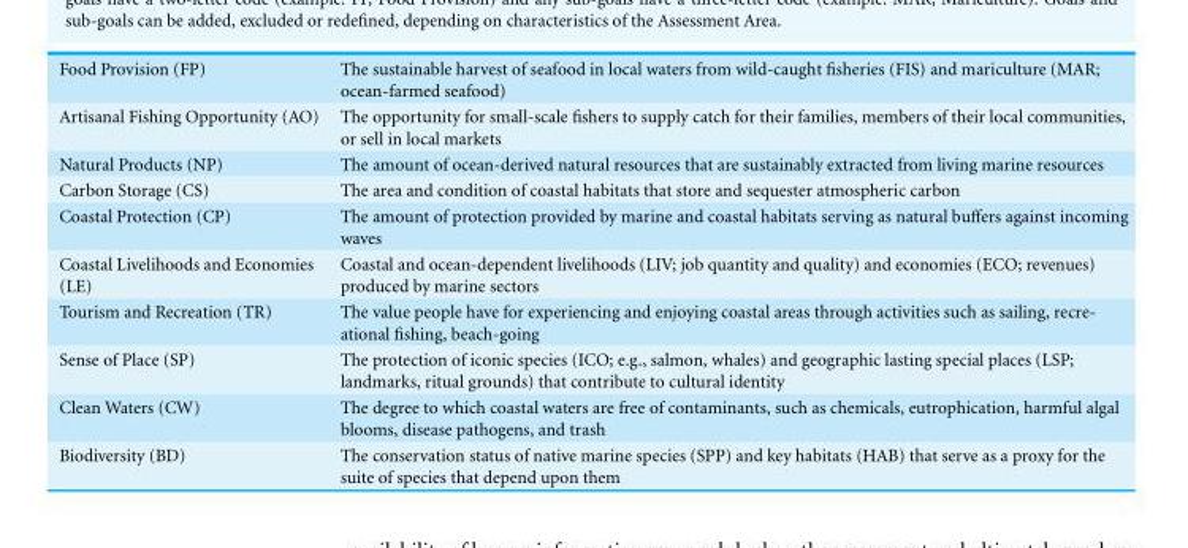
<table><tbody><tr><td>Food Provision (FP)</td><td>The sustainable harvest of seafood in local waters from wild-caught fisheries (FIS) and mariculture (MAR; ocean-farmed seafood)</td></tr><tr><td>Artisanal Fishing Opportunity (AO)</td><td>The opportunity for small-scale fishers to supply catch for their families, members of their local communities, or sell in local markets</td></tr><tr><td>Natural Products (NP)</td><td>The amount of ocean-derived natural resources that are sustainably extracted from living marine resources</td></tr><tr><td>Carbon Storage (CS)</td><td>The area and condition of coastal habitats that store and sequester atmospheric carbon</td></tr><tr><td>Coastal Protection (CP)</td><td>The amount of protection provided by marine and coastal habitats serving as natural buffers against incoming waves</td></tr><tr><td>Coastal Livelihoods and Economies (LE)</td><td>Coastal and ocean-dependent livelihoods (LIV; job quantity and quality) and economies (ECO; revenues) produced by marine sectors</td></tr><tr><td>Tourism and Recreation (TR)</td><td>The value people have for experiencing and enjoying coastal areas through activities such as sailing, recre- ational fishing, beach-going</td></tr><tr><td>Sense of Place (SP)</td><td>The protection of iconic species (ICO; e.g., salmon, whales) and geographic lasting special places (LSP; landmarks, ritual grounds) that contribute to cultural identity</td></tr><tr><td>Clean Waters (CW)</td><td>The degree to which coastal waters are free of contaminants, such as chemicals, eutrophication, harmful algal blooms, disease pathogens, and trash</td></tr><tr><td>Biodiversity (BD)</td><td>The conservation status of native marine species (SPP) and key habitats (HAB) that serve as a proxy for the suite of species that depend upon them</td></tr></tbody></table>